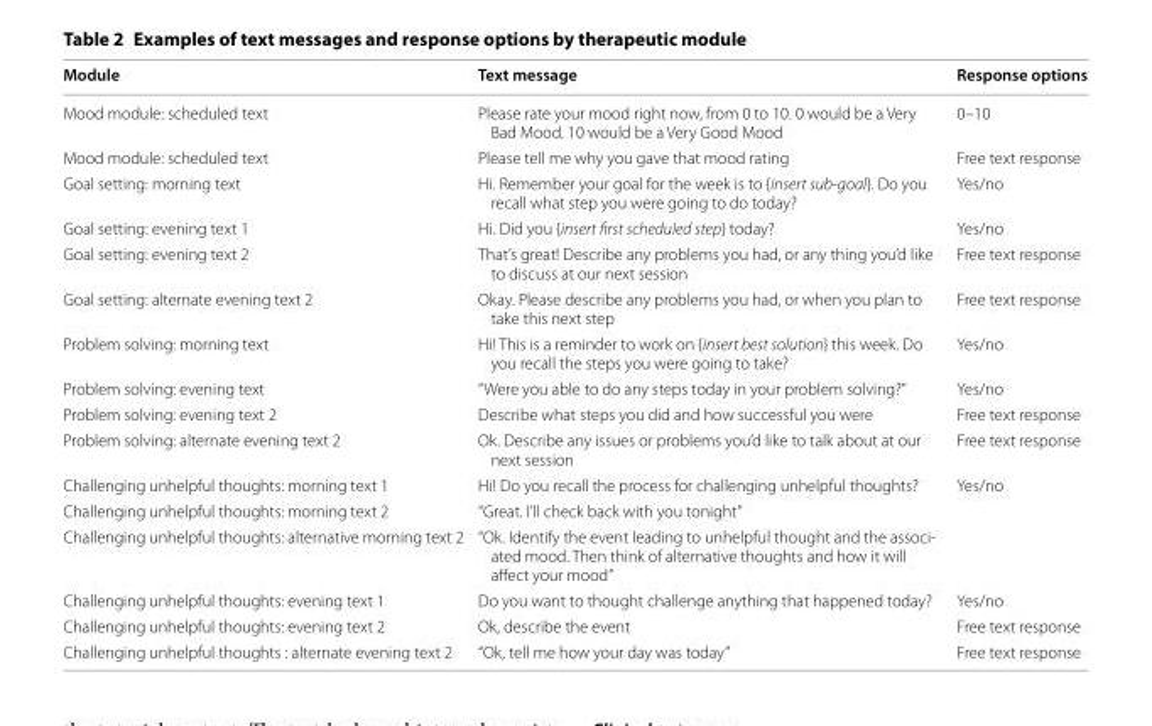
<table><thead><tr><td>Module</td><td>Text message</td><td>Response options</td></tr></thead><tbody><tr><td>Mood module: scheduled text</td><td>Please rate your mood right now, from 0 to 10. 0 would be a Very Bad Mood. 10 would be a Very Good Mood</td><td>0–10</td></tr><tr><td>Mood module: scheduled text</td><td>Please tell me why you gave that mood rating</td><td>Free text response</td></tr><tr><td>Goal setting: morning text</td><td>Hi. Remember your goal for the week is to {insert sub-goal}. Do you recall what step you were going to do today?</td><td>Yes/no</td></tr><tr><td>Goal setting: evening text 1</td><td>Hi. Did you {insert first scheduled step} today?</td><td>Yes/no</td></tr><tr><td>Goal setting: evening text 2</td><td>That’s great! Describe any problems you had, or any thing you’d like to discuss at our next session</td><td>Free text response</td></tr><tr><td>Goal setting: alternate evening text 2</td><td>Okay. Please describe any problems you had, or when you plan to take this next step</td><td>Free text response</td></tr><tr><td>Problem solving: morning text</td><td>Hi! This is a reminder to work on {insert best solution} this week. Do you recall the steps you were going to take?</td><td>Yes/no</td></tr><tr><td>Problem solving: evening text</td><td>“Were you able to do any steps today in your problem solving?”</td><td>Yes/no</td></tr><tr><td>Problem solving: evening text 2</td><td>Describe what steps you did and how successful you were</td><td>Free text response</td></tr><tr><td>Problem solving: alternate evening text 2</td><td>Ok. Describe any issues or problems you’d like to talk about at our next session</td><td>Free text response</td></tr><tr><td>Challenging unhelpful thoughts: morning text 1</td><td>Hi! Do you recall the process for challenging unhelpful thoughts?</td><td>Yes/no</td></tr><tr><td>Challenging unhelpful thoughts: morning text 2</td><td>“Great. I’ll check back with you tonight”</td><td></td></tr><tr><td>Challenging unhelpful thoughts: alternative morning text 2</td><td>“Ok. Identify the event leading to unhelpful thought and the associ- ated mood. Then think of alternative thoughts and how it will affect your mood”</td><td></td></tr><tr><td>Challenging unhelpful thoughts: evening text 1</td><td>Do you want to thought challenge anything that happened today?</td><td>Yes/no</td></tr><tr><td>Challenging unhelpful thoughts: evening text 2</td><td>Ok, describe the event</td><td>Free text response</td></tr><tr><td>Challenging unhelpful thoughts : alternate evening text 2</td><td>“Ok, tell me how your day was today”</td><td>Free text response</td></tr></tbody></table>